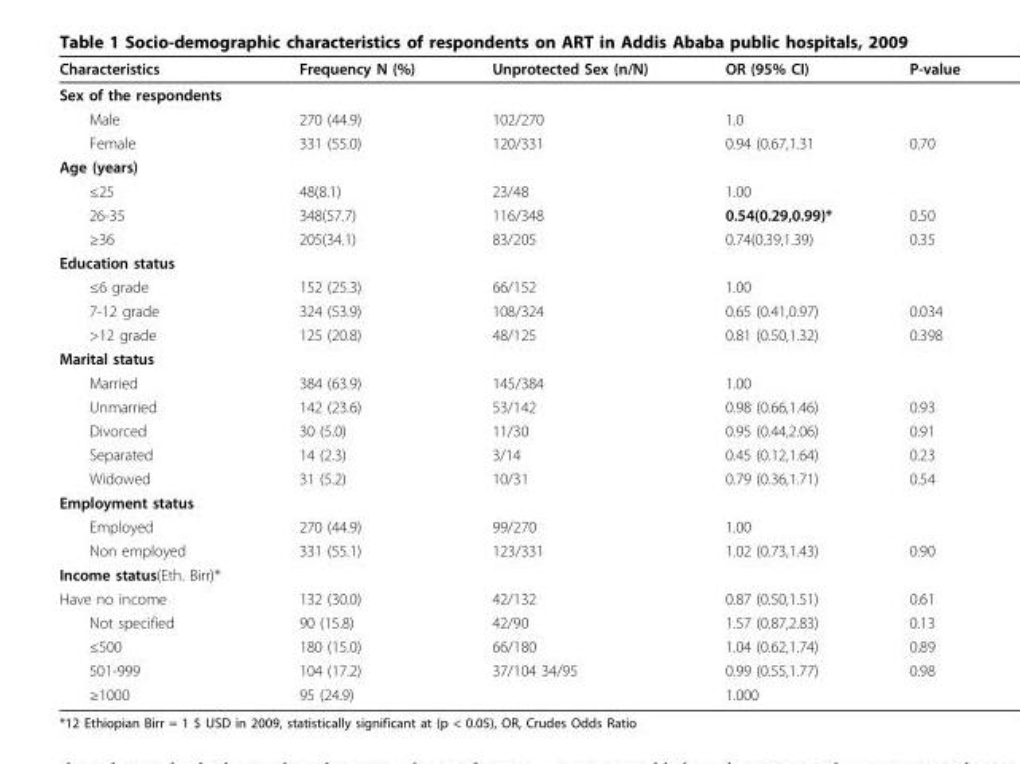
<table><thead><tr><td>Characteristics</td><td>Frequency N (%)</td><td>Unprotected Sex (n/N)</td><td>OR (95% CI)</td><td>P-value</td></tr></thead><tbody><tr><td colspan="5">Sex of the respondents</td></tr><tr><td>Male</td><td>270 (44.9)</td><td>102/270</td><td>1.0</td><td></td></tr><tr><td>Female</td><td>331 (55.0)</td><td>120/331</td><td>0.94 (0.67,1.31</td><td>0.70</td></tr><tr><td colspan="5">Age (years)</td></tr><tr><td>≤25</td><td>48(8.1)</td><td>23/48</td><td>1.00</td><td></td></tr><tr><td>26-35</td><td>348(57.7)</td><td>116/348</td><td>0.54(0.29,0.99)*</td><td>0.50</td></tr><tr><td>≥36</td><td>205(34.1)</td><td>83/205</td><td>0.74(0.39,1.39)</td><td>0.35</td></tr><tr><td colspan="5">Education status</td></tr><tr><td>≤6 grade</td><td>152 (25.3)</td><td>66/152</td><td>1.00</td><td></td></tr><tr><td>7-12 grade</td><td>324 (53.9)</td><td>108/324</td><td>0.65 (0.41,0.97)</td><td>0.034</td></tr><tr><td>&gt;12 grade</td><td>125 (20.8)</td><td>48/125</td><td>0.81 (0.50,1.32)</td><td>0.398</td></tr><tr><td colspan="5">Marital status</td></tr><tr><td>Married</td><td>384 (63.9)</td><td>145/384</td><td>1.00</td><td></td></tr><tr><td>Unmarried</td><td>142 (23.6)</td><td>53/142</td><td>0.98 (0.66,1.46)</td><td>0.93</td></tr><tr><td>Divorced</td><td>30 (5.0)</td><td>11/30</td><td>0.95 (0.44,2.06)</td><td>0.91</td></tr><tr><td>Separated</td><td>14 (2.3)</td><td>3/14</td><td>0.45 (0.12,1.64)</td><td>0.23</td></tr><tr><td>Widowed</td><td>31 (5.2)</td><td>10/31</td><td>0.79 (0.36,1.71)</td><td>0.54</td></tr><tr><td colspan="5">Employment status</td></tr><tr><td>Employed</td><td>270 (44.9)</td><td>99/270</td><td>1.00</td><td></td></tr><tr><td>Non employed</td><td>331 (55.1)</td><td>123/331</td><td>1.02 (0.73,1.43)</td><td>0.90</td></tr><tr><td colspan="5">Income status(Eth. Birr)*</td></tr><tr><td>Have no income</td><td>132 (30.0)</td><td>42/132</td><td>0.87 (0.50,1.51)</td><td>0.61</td></tr><tr><td>Not specified</td><td>90 (15.8)</td><td>42/90</td><td>1.57 (0.87,2.83)</td><td>0.13</td></tr><tr><td>≤500</td><td>180 (15.0)</td><td>66/180</td><td>1.04 (0.62,1.74)</td><td>0.89</td></tr><tr><td>501-999</td><td>104 (17.2)</td><td>37/104 34/95</td><td>0.99 (0.55,1.77)</td><td>0.98</td></tr><tr><td>≥1000</td><td>95 (24.9)</td><td></td><td>1.000</td><td></td></tr></tbody></table>